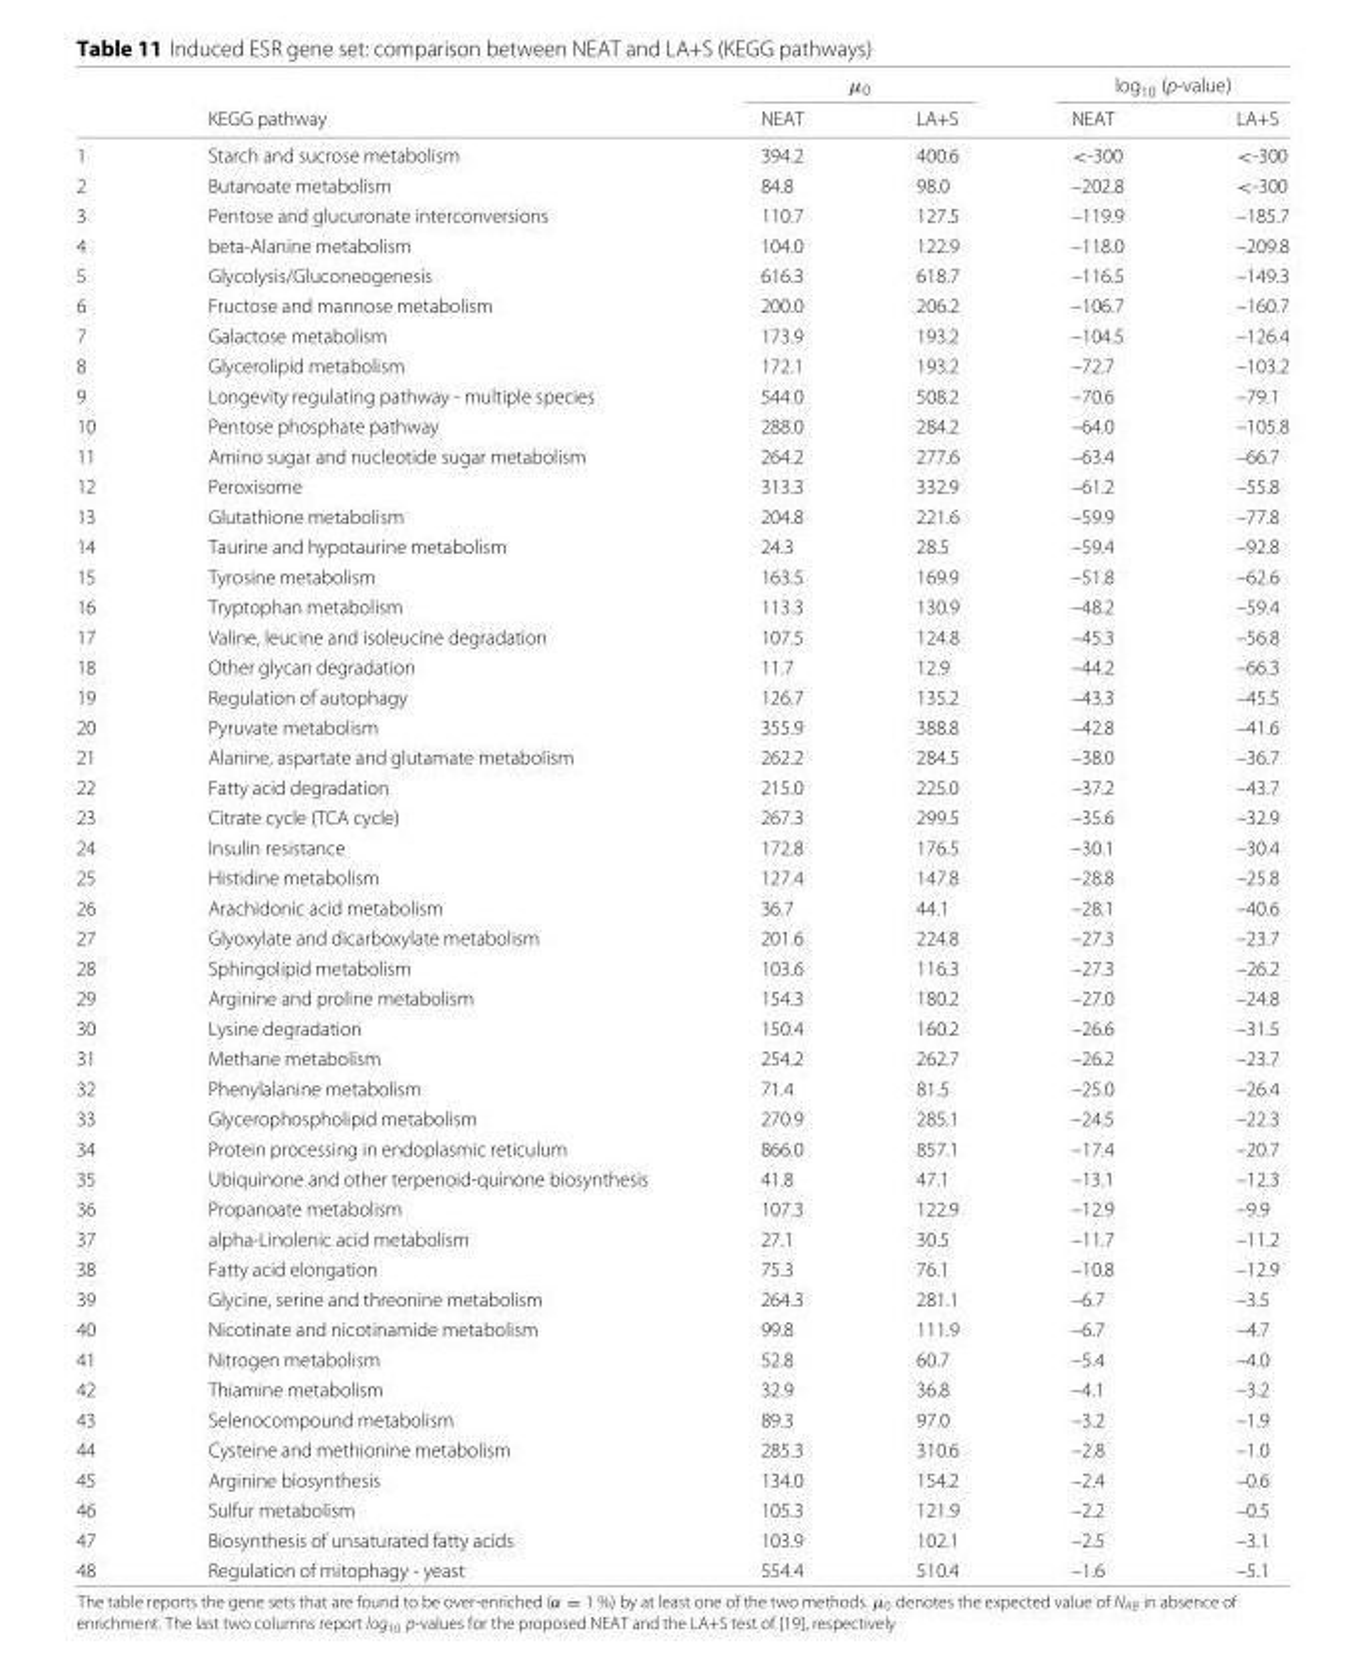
<table><thead><tr><td rowspan="2"></td><td rowspan="2">KEGG pathway</td><td colspan="2">μ<sub>0</sub></td><td colspan="2">log10 (p-value)</td></tr><tr><td>NEAT</td><td>LA+S</td><td>NEAT</td><td>LA+S</td></tr></thead><tbody><tr><td>1</td><td>Starch and sucrose metabolism</td><td>394.2</td><td>400.6</td><td>&lt;-300</td><td>&lt;-300</td></tr><tr><td>2</td><td>Butanoate metabolism</td><td>84.8</td><td>98.0</td><td>–202.8</td><td>&lt;-300</td></tr><tr><td>3</td><td>Pentose and glucuronate interconversions</td><td>110.7</td><td>127.5</td><td>–119.9</td><td>–185.7</td></tr><tr><td>4</td><td>beta-Alanine metabolism</td><td>104.0</td><td>122.9</td><td>–118.0</td><td>–209.8</td></tr><tr><td>5</td><td>Glycolysis/Gluconeogenesis</td><td>616.3</td><td>618.7</td><td>–116.5</td><td>–149.3</td></tr><tr><td>6</td><td>Fructose and mannose metabolism</td><td>200.0</td><td>206.2</td><td>–106.7</td><td>–160.7</td></tr><tr><td>7</td><td>Galactose metabolism</td><td>173.9</td><td>193.2</td><td>–104.5</td><td>–126.4</td></tr><tr><td>8</td><td>Glycerolipid metabolism</td><td>172.1</td><td>193.2</td><td>–72.7</td><td>–103.2</td></tr><tr><td>9</td><td>Longevity regulating pathway - multiple species</td><td>544.0</td><td>508.2</td><td>–70.6</td><td>–79.1</td></tr><tr><td>10</td><td>Pentose phosphate pathway</td><td>288.0</td><td>284.2</td><td>–64.0</td><td>–105.8</td></tr><tr><td>11</td><td>Amino sugar and nucleotide sugar metabolism</td><td>264.2</td><td>277.6</td><td>–63.4</td><td>–66.7</td></tr><tr><td>12</td><td>Peroxisome</td><td>313.3</td><td>332.9</td><td>–61.2</td><td>–55.8</td></tr><tr><td>13</td><td>Glutathione metabolism</td><td>204.8</td><td>221.6</td><td>–59.9</td><td>–77.8</td></tr><tr><td>14</td><td>Taurine and hypotaurine metabolism</td><td>24.3</td><td>28.5</td><td>–59.4</td><td>–92.8</td></tr><tr><td>15</td><td>Tyrosine metabolism</td><td>163.5</td><td>169.9</td><td>–51.8</td><td>–62.6</td></tr><tr><td>16</td><td>Tryptophan metabolism</td><td>113.3</td><td>130.9</td><td>–48.2</td><td>–59.4</td></tr><tr><td>17</td><td>Valine, leucine and isoleucine degradation</td><td>107.5</td><td>124.8</td><td>–45.3</td><td>–56.8</td></tr><tr><td>18</td><td>Other glycan degradation</td><td>11.7</td><td>12.9</td><td>–44.2</td><td>–66.3</td></tr><tr><td>19</td><td>Regulation of autophagy</td><td>126.7</td><td>135.2</td><td>–43.3</td><td>–45.5</td></tr><tr><td>20</td><td>Pyruvate metabolism</td><td>355.9</td><td>388.8</td><td>–42.8</td><td>–41.6</td></tr><tr><td>21</td><td>Alanine, aspartate and glutamate metabolism</td><td>262.2</td><td>284.5</td><td>–38.0</td><td>–36.7</td></tr><tr><td>22</td><td>Fatty acid degradation</td><td>215.0</td><td>225.0</td><td>–37.2</td><td>–43.7</td></tr><tr><td>23</td><td>Citrate cycle (TCA cycle)</td><td>267.3</td><td>299.5</td><td>–35.6</td><td>–32.9</td></tr><tr><td>24</td><td>Insulin resistance</td><td>172.8</td><td>176.5</td><td>–30.1</td><td>–30.4</td></tr><tr><td>25</td><td>Histidine metabolism</td><td>127.4</td><td>147.8</td><td>–28.8</td><td>–25.8</td></tr><tr><td>26</td><td>Arachidonic acid metabolism</td><td>36.7</td><td>44.1</td><td>–28.1</td><td>–40.6</td></tr><tr><td>27</td><td>Glyoxylate and dicarboxylate metabolism</td><td>201.6</td><td>224.8</td><td>–27.3</td><td>–23.7</td></tr><tr><td>28</td><td>Sphingolipid metabolism</td><td>103.6</td><td>116.3</td><td>–27.3</td><td>–26.2</td></tr><tr><td>29</td><td>Arginine and proline metabolism</td><td>154.3</td><td>180.2</td><td>–27.0</td><td>–24.8</td></tr><tr><td>30</td><td>Lysine degradation</td><td>150.4</td><td>160.2</td><td>–26.6</td><td>–31.5</td></tr><tr><td>31</td><td>Methane metabolism</td><td>254.2</td><td>262.7</td><td>–26.2</td><td>–23.7</td></tr><tr><td>32</td><td>Phenylalanine metabolism</td><td>71.4</td><td>81.5</td><td>–25.0</td><td>–26.4</td></tr><tr><td>33</td><td>Glycerophospholipid metabolism</td><td>270.9</td><td>285.1</td><td>–24.5</td><td>–22.3</td></tr><tr><td>34</td><td>Protein processing in endoplasmic reticulum</td><td>866.0</td><td>857.1</td><td>–17.4</td><td>–20.7</td></tr><tr><td>35</td><td>Ubiquinone and other terpenoid-quinone biosynthesis</td><td>41.8</td><td>47.1</td><td>–13.1</td><td>–12.3</td></tr><tr><td>36</td><td>Propanoate metabolism</td><td>107.3</td><td>122.9</td><td>–12.9</td><td>–9.9</td></tr><tr><td>37</td><td>alpha-Linolenic acid metabolism</td><td>27.1</td><td>30.5</td><td>–11.7</td><td>–11.2</td></tr><tr><td>38</td><td>Fatty acid elongation</td><td>75.3</td><td>76.1</td><td>–10.8</td><td>–12.9</td></tr><tr><td>39</td><td>Glycine, serine and threonine metabolism</td><td>264.3</td><td>281.1</td><td>–6.7</td><td>–3.5</td></tr><tr><td>40</td><td>Nicotinate and nicotinamide metabolism</td><td>99.8</td><td>111.9</td><td>–6.7</td><td>–4.7</td></tr><tr><td>41</td><td>Nitrogen metabolism</td><td>52.8</td><td>60.7</td><td>–5.4</td><td>–4.0</td></tr><tr><td>42</td><td>Thiamine metabolism</td><td>32.9</td><td>36.8</td><td>–4.1</td><td>–3.2</td></tr><tr><td>43</td><td>Selenocompound metabolism</td><td>89.3</td><td>97.0</td><td>–3.2</td><td>–1.9</td></tr><tr><td>44</td><td>Cysteine and methionine metabolism</td><td>285.3</td><td>310.6</td><td>–2.8</td><td>–1.0</td></tr><tr><td>45</td><td>Arginine biosynthesis</td><td>134.0</td><td>154.2</td><td>–2.4</td><td>–0.6</td></tr><tr><td>46</td><td>Sulfur metabolism</td><td>105.3</td><td>121.9</td><td>–2.2</td><td>–0.5</td></tr><tr><td>47</td><td>Biosynthesis of unsaturated fatty acids</td><td>103.9</td><td>102.1</td><td>–2.5</td><td>–3.1</td></tr><tr><td>48</td><td>Regulation of mitophagy - yeast</td><td>554.4</td><td>510.4</td><td>–1.6</td><td>–5.1</td></tr></tbody></table>